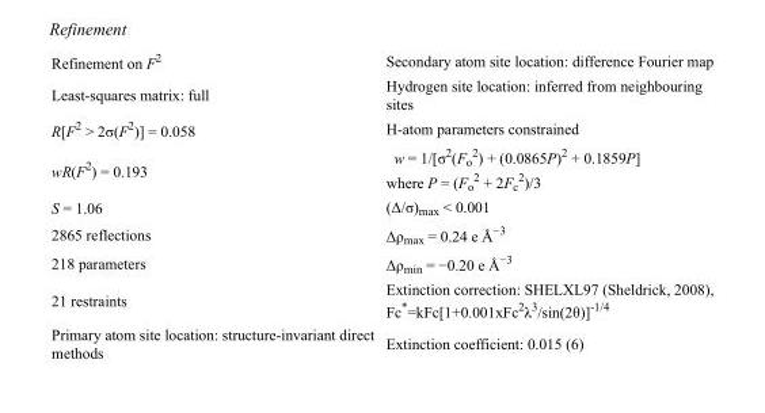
<table><tbody><tr><td>Refinement on F<sup>2</sup></td><td>Secondary atom site location: difference Fourier map</td></tr><tr><td>Least-squares matrix: full</td><td>Hydrogen site location: inferred from neighbouring sites</td></tr><tr><td>R[F<sup>2</sup> &gt; 2σ(F<sup>2</sup>)] = 0.058</td><td>H-atom parameters constrained</td></tr><tr><td>wR(F<sup>2</sup>) = 0.193</td><td>w = 1/[σ<sup>2</sup>(F<sub>o</sub> <sup>2</sup>) + (0.0865P)<sup>2</sup> + 0.1859P] where P = (F<sub>o</sub> <sup>2</sup> + 2F<sub>c</sub> <sup>2</sup>)/3</td></tr><tr><td>S = 1.06</td><td>(Δ/σ)<sub>max</sub> &lt; 0.001</td></tr><tr><td>2865 reflections</td><td>Δρ<sub>max</sub> = 0.24 e Å<sup>−3</sup></td></tr><tr><td>218 parameters</td><td>Δρ<sub>min</sub> = −0.20 e Å<sup>−3</sup></td></tr><tr><td>21 restraints</td><td>Extinction correction: SHELXL97 (Sheldrick, 2008), Fc*=kFc[1+0.001xFc<sup>2</sup>λ<sup>3</sup>/sin(2θ)]<sup>-1/4</sup></td></tr><tr><td>Primary atom site location: structure-invariant direct methods</td><td>Extinction coefficient: 0.015 (6)</td></tr></tbody></table>